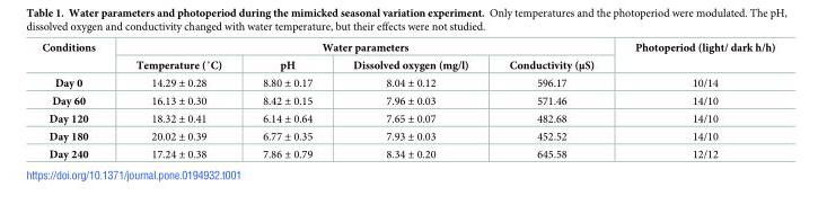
<table><thead><tr><td rowspan="2">Conditions</td><td colspan="4">Water parameters</td><td rowspan="2">Photoperiod (light/ dark h/h)</td></tr><tr><td>Temperature (˚C)</td><td>pH</td><td>Dissolved oxygen (mg/l)</td><td>Conductivity (μS)</td></tr></thead><tbody><tr><td>Day 0</td><td>14.29 ± 0.28</td><td>8.80 ± 0.17</td><td>8.04 ± 0.12</td><td>596.17</td><td>10/14</td></tr><tr><td>Day 60</td><td>16.13 ± 0.30</td><td>8.42 ± 0.15</td><td>7.96 ± 0.03</td><td>571.46</td><td>14/10</td></tr><tr><td>Day 120</td><td>18.32 ± 0.41</td><td>6.14 ± 0.64</td><td>7.65 ± 0.07</td><td>482.68</td><td>14/10</td></tr><tr><td>Day 180</td><td>20.02 ± 0.39</td><td>6.77 ± 0.35</td><td>7.93 ± 0.03</td><td>452.52</td><td>14/10</td></tr><tr><td>Day 240</td><td>17.24 ± 0.38</td><td>7.86 ± 0.79</td><td>8.34 ± 0.20</td><td>645.58</td><td>12/12</td></tr></tbody></table>